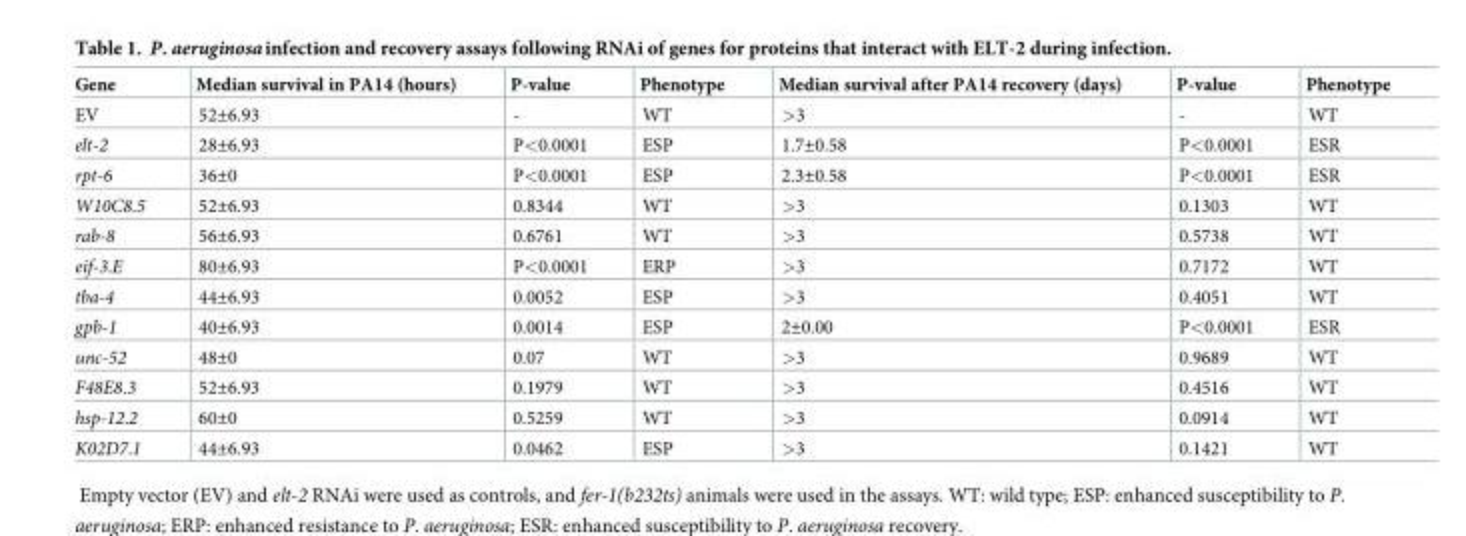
<table><thead><tr><td>Gene</td><td>Median survival in PA14 (hours)</td><td>P-value</td><td>Phenotype</td><td>Median survival after PA14 recovery (days)</td><td>P-value</td><td>Phenotype</td></tr></thead><tbody><tr><td>EV</td><td>52±6.93</td><td>-</td><td>WT</td><td>&gt;3</td><td>-</td><td>WT</td></tr><tr><td>elt-2</td><td>28±6.93</td><td>P&lt;0.0001</td><td>ESP</td><td>1.7±0.58</td><td>P&lt;0.0001</td><td>ESR</td></tr><tr><td>rpt-6</td><td>36±0</td><td>P&lt;0.0001</td><td>ESP</td><td>2.3±0.58</td><td>P&lt;0.0001</td><td>ESR</td></tr><tr><td>W10C8.5</td><td>52±6.93</td><td>0.8344</td><td>WT</td><td>&gt;3</td><td>0.1303</td><td>WT</td></tr><tr><td>rab-8</td><td>56±6.93</td><td>0.6761</td><td>WT</td><td>&gt;3</td><td>0.5738</td><td>WT</td></tr><tr><td>eif-3.E</td><td>80±6.93</td><td>P&lt;0.0001</td><td>ERP</td><td>&gt;3</td><td>0.7172</td><td>WT</td></tr><tr><td>tba-4</td><td>44±6.93</td><td>0.0052</td><td>ESP</td><td>&gt;3</td><td>0.4051</td><td>WT</td></tr><tr><td>gpb-1</td><td>40±6.93</td><td>0.0014</td><td>ESP</td><td>2±0.00</td><td>P&lt;0.0001</td><td>ESR</td></tr><tr><td>unc-52</td><td>48±0</td><td>0.07</td><td>WT</td><td>&gt;3</td><td>0.9689</td><td>WT</td></tr><tr><td>F48E8.3</td><td>52±6.93</td><td>0.1979</td><td>WT</td><td>&gt;3</td><td>0.4516</td><td>WT</td></tr><tr><td>hsp-12.2</td><td>60±0</td><td>0.5259</td><td>WT</td><td>&gt;3</td><td>0.0914</td><td>WT</td></tr><tr><td>K02D7.1</td><td>44±6.93</td><td>0.0462</td><td>ESP</td><td>&gt;3</td><td>0.1421</td><td>WT</td></tr></tbody></table>